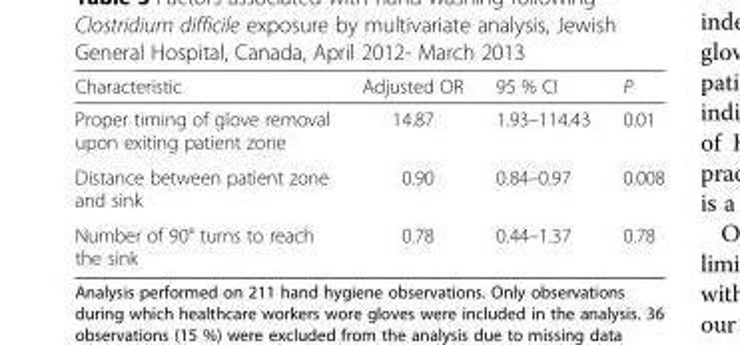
<table><thead><tr><td>Characteristic</td><td>Adjusted OR</td><td>95 % CI</td><td>P</td></tr></thead><tbody><tr><td>Proper timing of glove removal upon exiting patient zone</td><td>14.87</td><td>1.93–114.43</td><td>0.01</td></tr><tr><td>Distance between patient zone and sink</td><td>0.90</td><td>0.84–0.97</td><td>0.008</td></tr><tr><td>Number of 90° turns to reach the sink</td><td>0.78</td><td>0.44–1.37</td><td>0.78</td></tr></tbody></table>